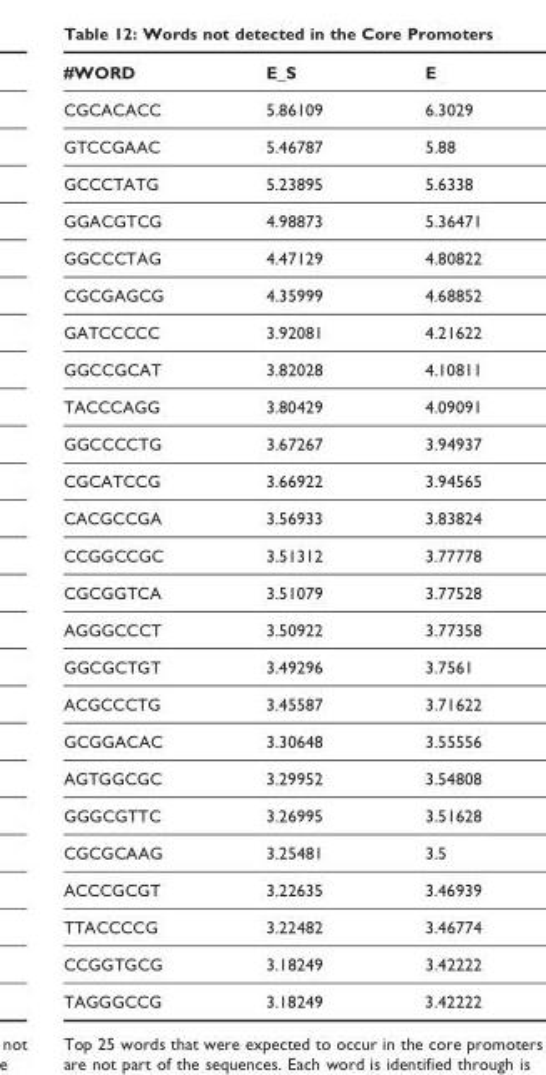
<table><thead><tr><td>#WORD</td><td>E_S</td><td>E</td></tr></thead><tbody><tr><td>CGCACACC</td><td>5.86109</td><td>6.3029</td></tr><tr><td>GTCCGAAC</td><td>5.46787</td><td>5.88</td></tr><tr><td>GCCCTATG</td><td>5.23895</td><td>5.6338</td></tr><tr><td>GGACGTCG</td><td>4.98873</td><td>5.36471</td></tr><tr><td>GGCCCTAG</td><td>4.47129</td><td>4.80822</td></tr><tr><td>CGCGAGCG</td><td>4.35999</td><td>4.68852</td></tr><tr><td>GATCCCCC</td><td>3.92081</td><td>4.21622</td></tr><tr><td>GGCCGCAT</td><td>3.82028</td><td>4.10811</td></tr><tr><td>TACCCAGG</td><td>3.80429</td><td>4.09091</td></tr><tr><td>GGCCCCTG</td><td>3.67267</td><td>3.94937</td></tr><tr><td>CGCATCCG</td><td>3.66922</td><td>3.94565</td></tr><tr><td>CACGCCGA</td><td>3.56933</td><td>3.83824</td></tr><tr><td>CCGGCCGC</td><td>3.51312</td><td>3.77778</td></tr><tr><td>CGCGGTCA</td><td>3.51079</td><td>3.77528</td></tr><tr><td>AGGGCCCT</td><td>3.50922</td><td>3.77358</td></tr><tr><td>GGCGCTGT</td><td>3.49296</td><td>3.7561</td></tr><tr><td>ACGCCCTG</td><td>3.45587</td><td>3.71622</td></tr><tr><td>GCGGACAC</td><td>3.30648</td><td>3.55556</td></tr><tr><td>AGTGGCGC</td><td>3.29952</td><td>3.54808</td></tr><tr><td>GGGCGTTC</td><td>3.26995</td><td>3.51628</td></tr><tr><td>CGCGCAAG</td><td>3.25481</td><td>3.5</td></tr><tr><td>ACCCGCGT</td><td>3.22635</td><td>3.46939</td></tr><tr><td>TTACCCCG</td><td>3.22482</td><td>3.46774</td></tr><tr><td>CCGGTGCG</td><td>3.18249</td><td>3.42222</td></tr><tr><td>TAGGGCCG</td><td>3.18249</td><td>3.42222</td></tr></tbody></table>